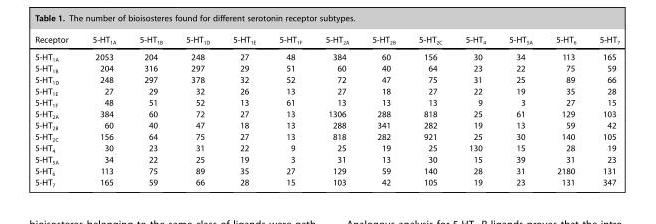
<table><thead><tr><td>Receptor</td><td>5-HT<sub>1A</sub></td><td>5-HT<sub>1B</sub></td><td>5-HT<sub>1D</sub></td><td>5-HT<sub>1E</sub></td><td>5-HT<sub>1F</sub></td><td>5-HT<sub>2A</sub></td><td>5-HT<sub>2B</sub></td><td>5-HT<sub>2C</sub></td><td>5-HT<sub>4</sub></td><td>5-HT<sub>5A</sub></td><td>5-HT<sub>6</sub></td><td>5-HT<sub>7</sub></td></tr></thead><tbody><tr><td>5-HT<sub>1A</sub></td><td>2053</td><td>204</td><td>248</td><td>27</td><td>48</td><td>384</td><td>60</td><td>156</td><td>30</td><td>34</td><td>113</td><td>165</td></tr><tr><td>5-HT<sub>1B</sub></td><td>204</td><td>316</td><td>297</td><td>29</td><td>51</td><td>60</td><td>40</td><td>64</td><td>23</td><td>22</td><td>75</td><td>59</td></tr><tr><td>5-HT<sub>1D</sub></td><td>248</td><td>297</td><td>378</td><td>32</td><td>52</td><td>72</td><td>47</td><td>75</td><td>31</td><td>25</td><td>89</td><td>66</td></tr><tr><td>5-HT<sub>1E</sub></td><td>27</td><td>29</td><td>32</td><td>26</td><td>13</td><td>27</td><td>18</td><td>27</td><td>22</td><td>19</td><td>35</td><td>28</td></tr><tr><td>5-HT<sub>1F</sub></td><td>48</td><td>51</td><td>52</td><td>13</td><td>61</td><td>13</td><td>13</td><td>13</td><td>9</td><td>3</td><td>27</td><td>15</td></tr><tr><td>5-HT<sub>2A</sub></td><td>384</td><td>60</td><td>72</td><td>27</td><td>13</td><td>1306</td><td>288</td><td>818</td><td>25</td><td>61</td><td>129</td><td>103</td></tr><tr><td>5-HT<sub>2B</sub></td><td>60</td><td>40</td><td>47</td><td>18</td><td>13</td><td>288</td><td>341</td><td>282</td><td>19</td><td>13</td><td>59</td><td>42</td></tr><tr><td>5-HT<sub>2C</sub></td><td>156</td><td>64</td><td>75</td><td>27</td><td>13</td><td>818</td><td>282</td><td>921</td><td>25</td><td>30</td><td>140</td><td>105</td></tr><tr><td>5-HT<sub>4</sub></td><td>30</td><td>23</td><td>31</td><td>22</td><td>9</td><td>25</td><td>19</td><td>25</td><td>130</td><td>15</td><td>28</td><td>19</td></tr><tr><td>5-HT<sub>5A</sub></td><td>34</td><td>22</td><td>25</td><td>19</td><td>3</td><td>31</td><td>13</td><td>30</td><td>15</td><td>39</td><td>31</td><td>23</td></tr><tr><td>5-HT<sub>6</sub></td><td>113</td><td>75</td><td>89</td><td>35</td><td>27</td><td>129</td><td>59</td><td>140</td><td>28</td><td>31</td><td>2180</td><td>131</td></tr><tr><td>5-HT<sub>7</sub></td><td>165</td><td>59</td><td>66</td><td>28</td><td>15</td><td>103</td><td>42</td><td>105</td><td>19</td><td>23</td><td>131</td><td>347</td></tr></tbody></table>